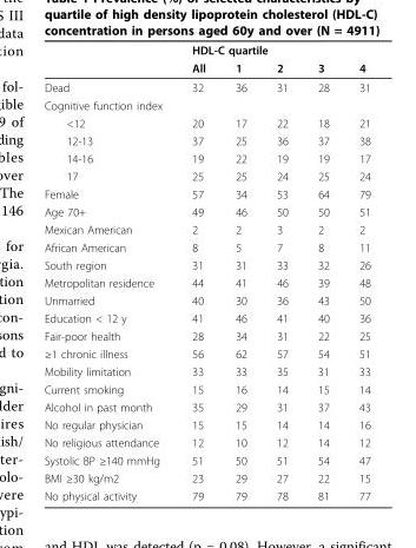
<table><thead><tr><td rowspan="2"></td><td colspan="5">HDL-C quartile</td></tr><tr><td>All</td><td>1</td><td>2</td><td>3</td><td>4</td></tr></thead><tbody><tr><td>Dead</td><td>32</td><td>36</td><td>31</td><td>28</td><td>31</td></tr><tr><td colspan="6">Cognitive function index</td></tr><tr><td>&lt;12</td><td>20</td><td>17</td><td>22</td><td>18</td><td>21</td></tr><tr><td>12-13</td><td>37</td><td>25</td><td>36</td><td>37</td><td>38</td></tr><tr><td>14-16</td><td>19</td><td>22</td><td>19</td><td>19</td><td>17</td></tr><tr><td>17</td><td>25</td><td>25</td><td>24</td><td>25</td><td>24</td></tr><tr><td>Female</td><td>57</td><td>34</td><td>53</td><td>64</td><td>79</td></tr><tr><td>Age 70+</td><td>49</td><td>46</td><td>50</td><td>50</td><td>51</td></tr><tr><td>Mexican American</td><td>2</td><td>2</td><td>3</td><td>2</td><td>2</td></tr><tr><td>African American</td><td>8</td><td>5</td><td>7</td><td>8</td><td>11</td></tr><tr><td>South region</td><td>31</td><td>31</td><td>33</td><td>32</td><td>26</td></tr><tr><td>Metropolitan residence</td><td>44</td><td>41</td><td>46</td><td>39</td><td>48</td></tr><tr><td>Unmarried</td><td>40</td><td>30</td><td>36</td><td>43</td><td>50</td></tr><tr><td>Education &lt; 12 y</td><td>41</td><td>46</td><td>41</td><td>40</td><td>36</td></tr><tr><td>Fair-poor health</td><td>28</td><td>34</td><td>31</td><td>22</td><td>25</td></tr><tr><td>≥1 chronic illness</td><td>56</td><td>62</td><td>57</td><td>54</td><td>51</td></tr><tr><td>Mobility limitation</td><td>33</td><td>33</td><td>35</td><td>31</td><td>33</td></tr><tr><td>Current smoking</td><td>15</td><td>16</td><td>14</td><td>15</td><td>14</td></tr><tr><td>Alcohol in past month</td><td>35</td><td>29</td><td>31</td><td>37</td><td>43</td></tr><tr><td>No regular physician</td><td>15</td><td>15</td><td>14</td><td>14</td><td>16</td></tr><tr><td>No religious attendance</td><td>12</td><td>10</td><td>12</td><td>14</td><td>12</td></tr><tr><td>Systolic BP ≥140 mmHg</td><td>51</td><td>50</td><td>51</td><td>54</td><td>47</td></tr><tr><td>BMI ≥30 kg/m2</td><td>23</td><td>29</td><td>27</td><td>22</td><td>15</td></tr><tr><td>No physical activity</td><td>79</td><td>79</td><td>78</td><td>81</td><td>77</td></tr></tbody></table>